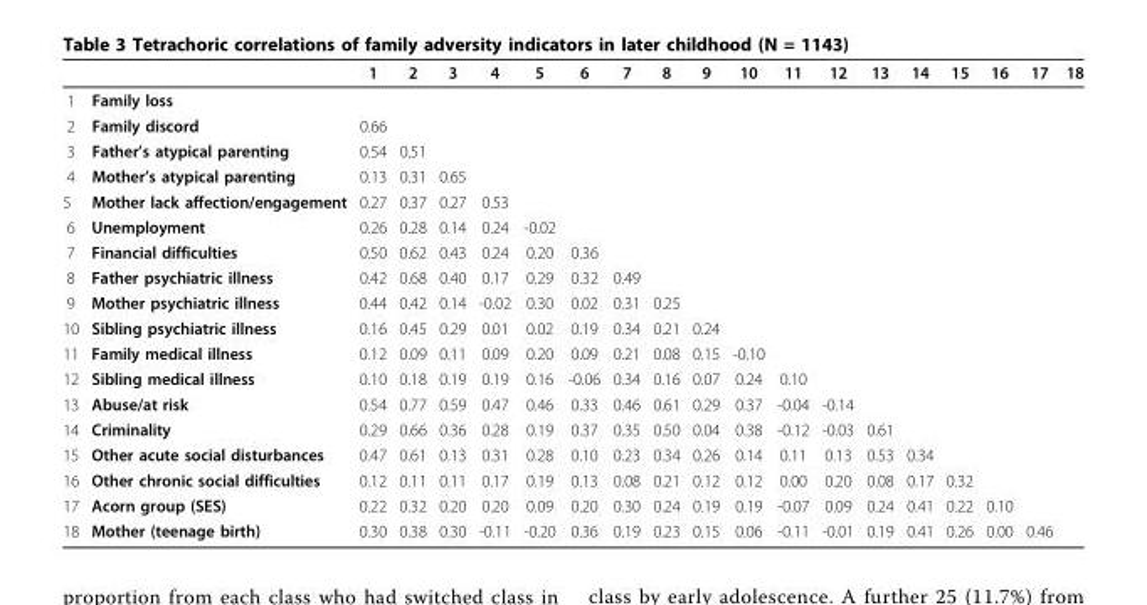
<table><thead><tr><td></td><td></td><td>1</td><td>2</td><td>3</td><td>4</td><td>5</td><td>6</td><td>7</td><td>8</td><td>9</td><td>10</td><td>11</td><td>12</td><td>13</td><td>14</td><td>15</td><td>16</td><td>17</td><td>18</td></tr></thead><tbody><tr><td>1</td><td>Family loss</td><td></td><td></td><td></td><td></td><td></td><td></td><td></td><td></td><td></td><td></td><td></td><td></td><td></td><td></td><td></td><td></td><td></td><td></td></tr><tr><td>2</td><td>Family discord</td><td>0.66</td><td></td><td></td><td></td><td></td><td></td><td></td><td></td><td></td><td></td><td></td><td></td><td></td><td></td><td></td><td></td><td></td><td></td></tr><tr><td>3</td><td>Father’s atypical parenting</td><td>0.54</td><td>0.51</td><td></td><td></td><td></td><td></td><td></td><td></td><td></td><td></td><td></td><td></td><td></td><td></td><td></td><td></td><td></td><td></td></tr><tr><td>4</td><td>Mother’s atypical parenting</td><td>0.13</td><td>0.31</td><td>0.65</td><td></td><td></td><td></td><td></td><td></td><td></td><td></td><td></td><td></td><td></td><td></td><td></td><td></td><td></td><td></td></tr><tr><td>5</td><td>Mother lack affection/engagement</td><td>0.27</td><td>0.37</td><td>0.27</td><td>0.53</td><td></td><td></td><td></td><td></td><td></td><td></td><td></td><td></td><td></td><td></td><td></td><td></td><td></td><td></td></tr><tr><td>6</td><td>Unemployment</td><td>0.26</td><td>0.28</td><td>0.14</td><td>0.24</td><td>-0.02</td><td></td><td></td><td></td><td></td><td></td><td></td><td></td><td></td><td></td><td></td><td></td><td></td><td></td></tr><tr><td>7</td><td>Financial difficulties</td><td>0.50</td><td>0.62</td><td>0.43</td><td>0.24</td><td>0.20</td><td>0.36</td><td></td><td></td><td></td><td></td><td></td><td></td><td></td><td></td><td></td><td></td><td></td><td></td></tr><tr><td>8</td><td>Father psychiatric illness</td><td>0.42</td><td>0.68</td><td>0.40</td><td>0.17</td><td>0.29</td><td>0.32</td><td>0.49</td><td></td><td></td><td></td><td></td><td></td><td></td><td></td><td></td><td></td><td></td><td></td></tr><tr><td>9</td><td>Mother psychiatric illness</td><td>0.44</td><td>0.42</td><td>0.14</td><td>-0.02</td><td>0.30</td><td>0.02</td><td>0.31</td><td>0.25</td><td></td><td></td><td></td><td></td><td></td><td></td><td></td><td></td><td></td><td></td></tr><tr><td>10</td><td>Sibling psychiatric illness</td><td>0.16</td><td>0.45</td><td>0.29</td><td>0.01</td><td>0.02</td><td>0.19</td><td>0.34</td><td>0.21</td><td>0.24</td><td></td><td></td><td></td><td></td><td></td><td></td><td></td><td></td><td></td></tr><tr><td>11</td><td>Family medical illness</td><td>0.12</td><td>0.09</td><td>0.11</td><td>0.09</td><td>0.20</td><td>0.09</td><td>0.21</td><td>0.08</td><td>0.15</td><td>-0.10</td><td></td><td></td><td></td><td></td><td></td><td></td><td></td><td></td></tr><tr><td>12</td><td>Sibling medical illness</td><td>0.10</td><td>0.18</td><td>0.19</td><td>0.19</td><td>0.16</td><td>-0.06</td><td>0.34</td><td>0.16</td><td>0.07</td><td>0.24</td><td>0.10</td><td></td><td></td><td></td><td></td><td></td><td></td><td></td></tr><tr><td>13</td><td>Abuse/at risk</td><td>0.54</td><td>0.77</td><td>0.59</td><td>0.47</td><td>0.46</td><td>0.33</td><td>0.46</td><td>0.61</td><td>0.29</td><td>0.37</td><td>-0.04</td><td>-0.14</td><td></td><td></td><td></td><td></td><td></td><td></td></tr><tr><td>14</td><td>Criminality</td><td>0.29</td><td>0.66</td><td>0.36</td><td>0.28</td><td>0.19</td><td>0.37</td><td>0.35</td><td>0.50</td><td>0.04</td><td>0.38</td><td>-0.12</td><td>-0.03</td><td>0.61</td><td></td><td></td><td></td><td></td><td></td></tr><tr><td>15</td><td>Other acute social disturbances</td><td>0.47</td><td>0.61</td><td>0.13</td><td>0.31</td><td>0.28</td><td>0.10</td><td>0.23</td><td>0.34</td><td>0.26</td><td>0.14</td><td>0.11</td><td>0.13</td><td>0.53</td><td>0.34</td><td></td><td></td><td></td><td></td></tr><tr><td>16</td><td>Other chronic social difficulties</td><td>0.12</td><td>0.11</td><td>0.11</td><td>0.17</td><td>0.19</td><td>0.13</td><td>0.08</td><td>0.21</td><td>0.12</td><td>0.12</td><td>0.00</td><td>0.20</td><td>0.08</td><td>0.17</td><td>0.32</td><td></td><td></td><td></td></tr><tr><td>17</td><td>Acorn group (SES)</td><td>0.22</td><td>0.32</td><td>0.20</td><td>0.20</td><td>0.09</td><td>0.20</td><td>0.30</td><td>0.24</td><td>0.19</td><td>0.19</td><td>-0.07</td><td>0.09</td><td>0.24</td><td>0.41</td><td>0.22</td><td>0.10</td><td></td><td></td></tr><tr><td>18</td><td>Mother (teenage birth)</td><td>0.30</td><td>0.38</td><td>0.30</td><td>-0.11</td><td>-0.20</td><td>0.36</td><td>0.19</td><td>0.23</td><td>0.15</td><td>0.06</td><td>-0.11</td><td>-0.01</td><td>0.19</td><td>0.41</td><td>0.26</td><td>0.00</td><td>0.46</td><td></td></tr></tbody></table>